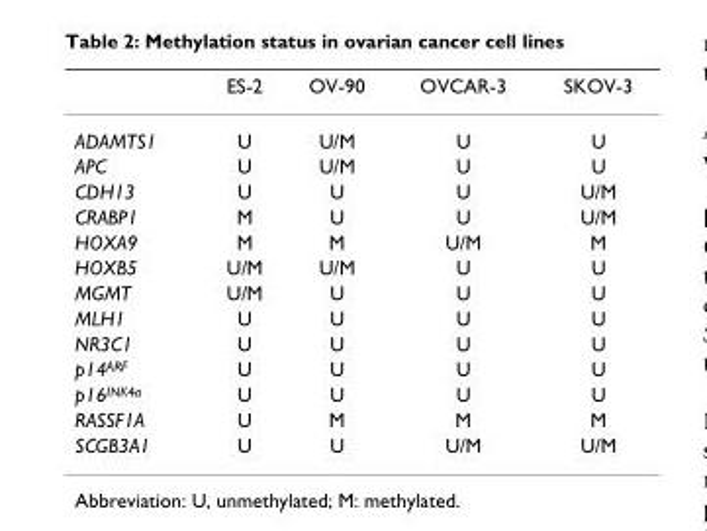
<table><thead><tr><td></td><td>ES-2</td><td>OV-90</td><td>OVCAR-3</td><td>SKOV-3</td></tr></thead><tbody><tr><td>ADAMTS1</td><td>U</td><td>U/M</td><td>U</td><td>U</td></tr><tr><td>APC</td><td>U</td><td>U/M</td><td>U</td><td>U</td></tr><tr><td>CDH13</td><td>U</td><td>U</td><td>U</td><td>U/M</td></tr><tr><td>CRABP1</td><td>M</td><td>U</td><td>U</td><td>U/M</td></tr><tr><td>HOXA9</td><td>M</td><td>M</td><td>U/M</td><td>M</td></tr><tr><td>HOXB5</td><td>U/M</td><td>U/M</td><td>U</td><td>U</td></tr><tr><td>MGMT</td><td>U/M</td><td>U</td><td>U</td><td>U</td></tr><tr><td>MLH1</td><td>U</td><td>U</td><td>U</td><td>U</td></tr><tr><td>NR3C1</td><td>U</td><td>U</td><td>U</td><td>U</td></tr><tr><td>p14<sup>ARF</sup></td><td>U</td><td>U</td><td>U</td><td>U</td></tr><tr><td>p16<sup>INK4a</sup></td><td>U</td><td>U</td><td>U</td><td>U</td></tr><tr><td>RASSF1A</td><td>U</td><td>M</td><td>M</td><td>M</td></tr><tr><td>SCGB3A1</td><td>U</td><td>U</td><td>U/M</td><td>U/M</td></tr></tbody></table>